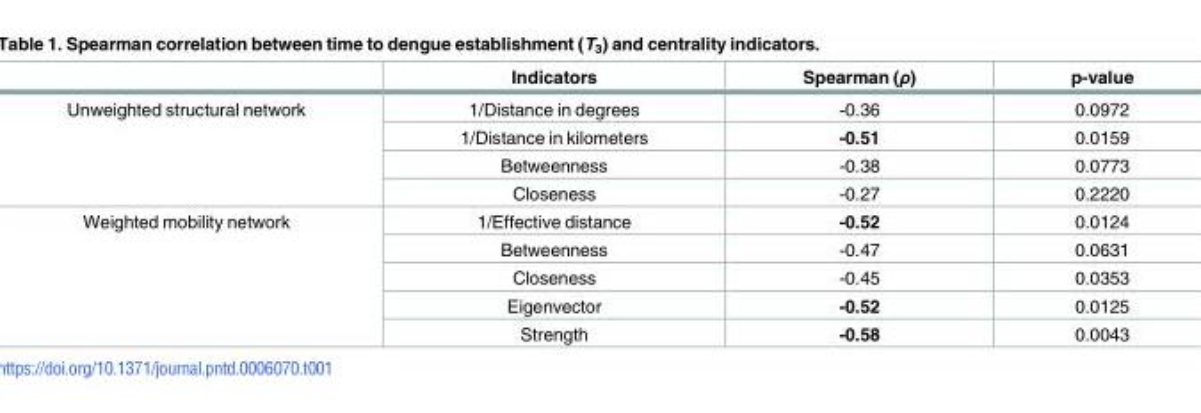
<table><thead><tr><td></td><td>Indicators</td><td>Spearman (ρ)</td><td>p-value</td></tr></thead><tbody><tr><td rowspan="4">Unweighted structural network</td><td>1/Distance in degrees</td><td>-0.36</td><td>0.0972</td></tr><tr><td>1/Distance in kilometers</td><td>-0.51</td><td>0.0159</td></tr><tr><td>Betweenness</td><td>-0.38</td><td>0.0773</td></tr><tr><td>Closeness</td><td>-0.27</td><td>0.2220</td></tr><tr><td rowspan="5">Weighted mobility network</td><td>1/Effective distance</td><td>-0.52</td><td>0.0124</td></tr><tr><td>Betweenness</td><td>-0.47</td><td>0.0631</td></tr><tr><td>Closeness</td><td>-0.45</td><td>0.0353</td></tr><tr><td>Eigenvector</td><td>-0.52</td><td>0.0125</td></tr><tr><td>Strength</td><td>-0.58</td><td>0.0043</td></tr></tbody></table>